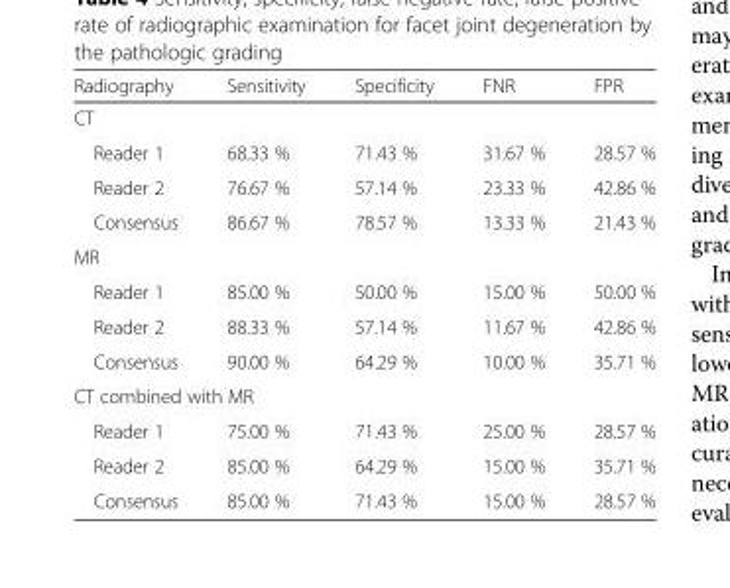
<table><thead><tr><td>Radiography</td><td>Sensitivity</td><td>Specificity</td><td>FNR</td><td>FPR</td></tr></thead><tbody><tr><td colspan="5">CT</td></tr><tr><td>Reader 1</td><td>68.33 %</td><td>71.43 %</td><td>31.67 %</td><td>28.57 %</td></tr><tr><td>Reader 2</td><td>76.67 %</td><td>57.14 %</td><td>23.33 %</td><td>42.86 %</td></tr><tr><td>Consensus</td><td>86.67 %</td><td>78.57 %</td><td>13.33 %</td><td>21.43 %</td></tr><tr><td colspan="5">MR</td></tr><tr><td>Reader 1</td><td>85.00 %</td><td>50.00 %</td><td>15.00 %</td><td>50.00 %</td></tr><tr><td>Reader 2</td><td>88.33 %</td><td>57.14 %</td><td>11.67 %</td><td>42.86 %</td></tr><tr><td>Consensus</td><td>90.00 %</td><td>64.29 %</td><td>10.00 %</td><td>35.71 %</td></tr><tr><td colspan="5">CT combined with MR</td></tr><tr><td>Reader 1</td><td>75.00 %</td><td>71.43 %</td><td>25.00 %</td><td>28.57 %</td></tr><tr><td>Reader 2</td><td>85.00 %</td><td>64.29 %</td><td>15.00 %</td><td>35.71 %</td></tr><tr><td>Consensus</td><td>85.00 %</td><td>71.43 %</td><td>15.00 %</td><td>28.57 %</td></tr></tbody></table>